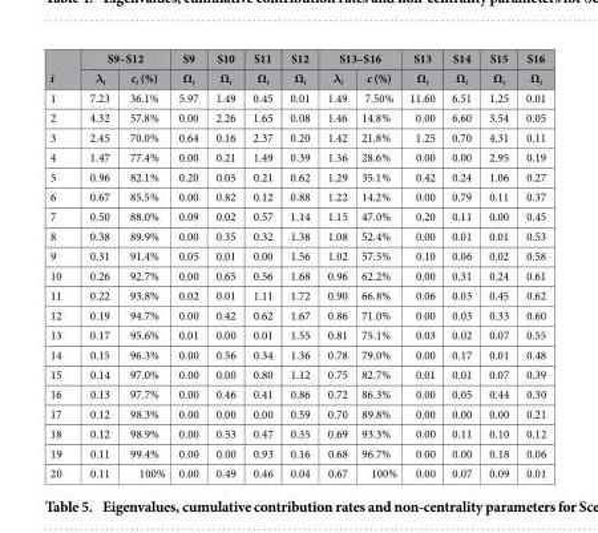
<table><thead><tr><td rowspan="2">i</td><td colspan="2">S9–S12</td><td rowspan="2">S9 Ω<sub>i</sub></td><td rowspan="2">S10 Ω<sub>i</sub></td><td rowspan="2">S11 Ω<sub>i</sub></td><td rowspan="2">S12 Ω<sub>i</sub></td><td colspan="2">S13–S16</td><td rowspan="2">S13 Ω<sub>i</sub></td><td rowspan="2">S14 Ω<sub>i</sub></td><td rowspan="2">S15 Ω<sub>i</sub></td><td rowspan="2">S16 Ω<sub>i</sub></td></tr><tr><td>λ<sub>i</sub></td><td>c<sub>i</sub> (%)</td><td>λ<sub>i</sub></td><td>c (%)</td></tr></thead><tbody><tr><td>1</td><td>7.23</td><td>36.1%</td><td>5.97</td><td>1.49</td><td>0.45</td><td>0.01</td><td>1.49</td><td>7.50%</td><td>11.60</td><td>6.51</td><td>1.25</td><td>0.01</td></tr><tr><td>2</td><td>4.32</td><td>57.8%</td><td>0.00</td><td>2.26</td><td>1.65</td><td>0.08</td><td>1.46</td><td>14.8%</td><td>0.00</td><td>6.60</td><td>3.54</td><td>0.05</td></tr><tr><td>3</td><td>2.45</td><td>70.0%</td><td>0.64</td><td>0.16</td><td>2.37</td><td>0.20</td><td>1.42</td><td>21.8%</td><td>1.25</td><td>0.70</td><td>4.31</td><td>0.11</td></tr><tr><td>4</td><td>1.47</td><td>77.4%</td><td>0.00</td><td>0.21</td><td>1.49</td><td>0.39</td><td>1.36</td><td>28.6%</td><td>0.00</td><td>0.00</td><td>2.95</td><td>0.19</td></tr><tr><td>5</td><td>0.96</td><td>82.1%</td><td>0.20</td><td>0.05</td><td>0.21</td><td>0.62</td><td>1.29</td><td>35.1%</td><td>0.42</td><td>0.24</td><td>1.06</td><td>0.27</td></tr><tr><td>6</td><td>0.67</td><td>85.5%</td><td>0.00</td><td>0.82</td><td>0.12</td><td>0.88</td><td>1.22</td><td>14.2%</td><td>0.00</td><td>0.79</td><td>0.11</td><td>0.37</td></tr><tr><td>7</td><td>0.50</td><td>88.0%</td><td>0.09</td><td>0.02</td><td>0.57</td><td>1.14</td><td>1.15</td><td>47.0%</td><td>0.20</td><td>0.11</td><td>0.00</td><td>0.45</td></tr><tr><td>8</td><td>0.38</td><td>89.9%</td><td>0.00</td><td>0.35</td><td>0.32</td><td>1.38</td><td>1.08</td><td>52.4%</td><td>0.00</td><td>0.01</td><td>0.01</td><td>0.53</td></tr><tr><td>9</td><td>0.31</td><td>91.4%</td><td>0.05</td><td>0.01</td><td>0.00</td><td>1.56</td><td>1.02</td><td>57.5%</td><td>0.10</td><td>0.06</td><td>0.02</td><td>0.58</td></tr><tr><td>10</td><td>0.26</td><td>92.7%</td><td>0.00</td><td>0.65</td><td>0.56</td><td>1.68</td><td>0.96</td><td>62.2%</td><td>0.00</td><td>0.31</td><td>0.24</td><td>0.61</td></tr><tr><td>11</td><td>0.22</td><td>93.8%</td><td>0.02</td><td>0.01</td><td>1.11</td><td>1.72</td><td>0.90</td><td>66.8%</td><td>0.06</td><td>0.03</td><td>0.45</td><td>0.62</td></tr><tr><td>12</td><td>0.19</td><td>94.7%</td><td>0.00</td><td>0.42</td><td>0.62</td><td>1.67</td><td>0.86</td><td>71.0%</td><td>0.00</td><td>0.03</td><td>0.33</td><td>0.60</td></tr><tr><td>13</td><td>0.17</td><td>95.6%</td><td>0.01</td><td>0.00</td><td>0.01</td><td>1.55</td><td>0.81</td><td>75.1%</td><td>0.03</td><td>0.02</td><td>0.07</td><td>0.55</td></tr><tr><td>14</td><td>0.15</td><td>96.3%</td><td>0.00</td><td>0.56</td><td>0.34</td><td>1.36</td><td>0.78</td><td>79.0%</td><td>0.00</td><td>0.17</td><td>0.01</td><td>0.48</td></tr><tr><td>15</td><td>0.14</td><td>97.0%</td><td>0.00</td><td>0.00</td><td>0.80</td><td>1.12</td><td>0.75</td><td>82.7%</td><td>0.01</td><td>0.01</td><td>0.07</td><td>0.39</td></tr><tr><td>16</td><td>0.13</td><td>97.7%</td><td>0.00</td><td>0.46</td><td>0.41</td><td>0.86</td><td>0.72</td><td>86.3%</td><td>0.00</td><td>0.05</td><td>0.44</td><td>0.30</td></tr><tr><td>17</td><td>0.12</td><td>98.3%</td><td>0.00</td><td>0.00</td><td>0.00</td><td>0.59</td><td>0.70</td><td>89.8%</td><td>0.00</td><td>0.00</td><td>0.00</td><td>0.21</td></tr><tr><td>18</td><td>0.12</td><td>98.9%</td><td>0.00</td><td>0.53</td><td>0.47</td><td>0.35</td><td>0.69</td><td>93.3%</td><td>0.00</td><td>0.11</td><td>0.10</td><td>0.12</td></tr><tr><td>19</td><td>0.11</td><td>99.4%</td><td>0.00</td><td>0.00</td><td>0.93</td><td>0.16</td><td>0.68</td><td>96.7%</td><td>0.00</td><td>0.00</td><td>0.18</td><td>0.06</td></tr><tr><td>20</td><td>0.11</td><td>100%</td><td>0.00</td><td>0.49</td><td>0.46</td><td>0.04</td><td>0.67</td><td>100%</td><td>0.00</td><td>0.07</td><td>0.09</td><td>0.01</td></tr></tbody></table>